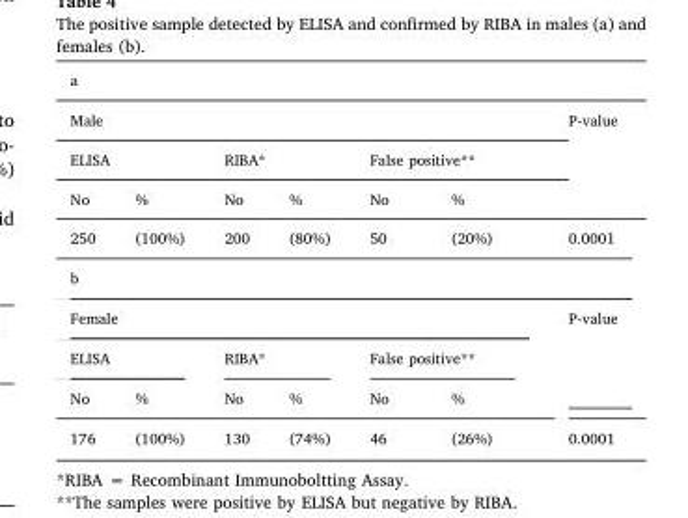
<table><thead><tr><td colspan="7">a</td></tr><tr><td colspan="6">Male</td><td rowspan="3">P-value</td></tr><tr><td colspan="2">ELISA</td><td colspan="2">RIBA*</td><td colspan="2">False positive**</td></tr><tr><td>No</td><td>%</td><td>No</td><td>%</td><td>No</td><td>%</td></tr></thead><tbody><tr><td>250</td><td>(100%)</td><td>200</td><td>(80%)</td><td>50</td><td>(20%)</td><td>0.0001</td></tr><tr><td colspan="7">b</td></tr><tr><td colspan="6">Female</td><td rowspan="3">P-value</td></tr><tr><td colspan="2">ELISA</td><td colspan="2">RIBA*</td><td colspan="2">False positive**</td></tr><tr><td>No</td><td>%</td><td>No</td><td>%</td><td>No</td><td>%</td></tr><tr><td>176</td><td>(100%)</td><td>130</td><td>(74%)</td><td>46</td><td>(26%)</td><td>0.0001</td></tr></tbody></table>